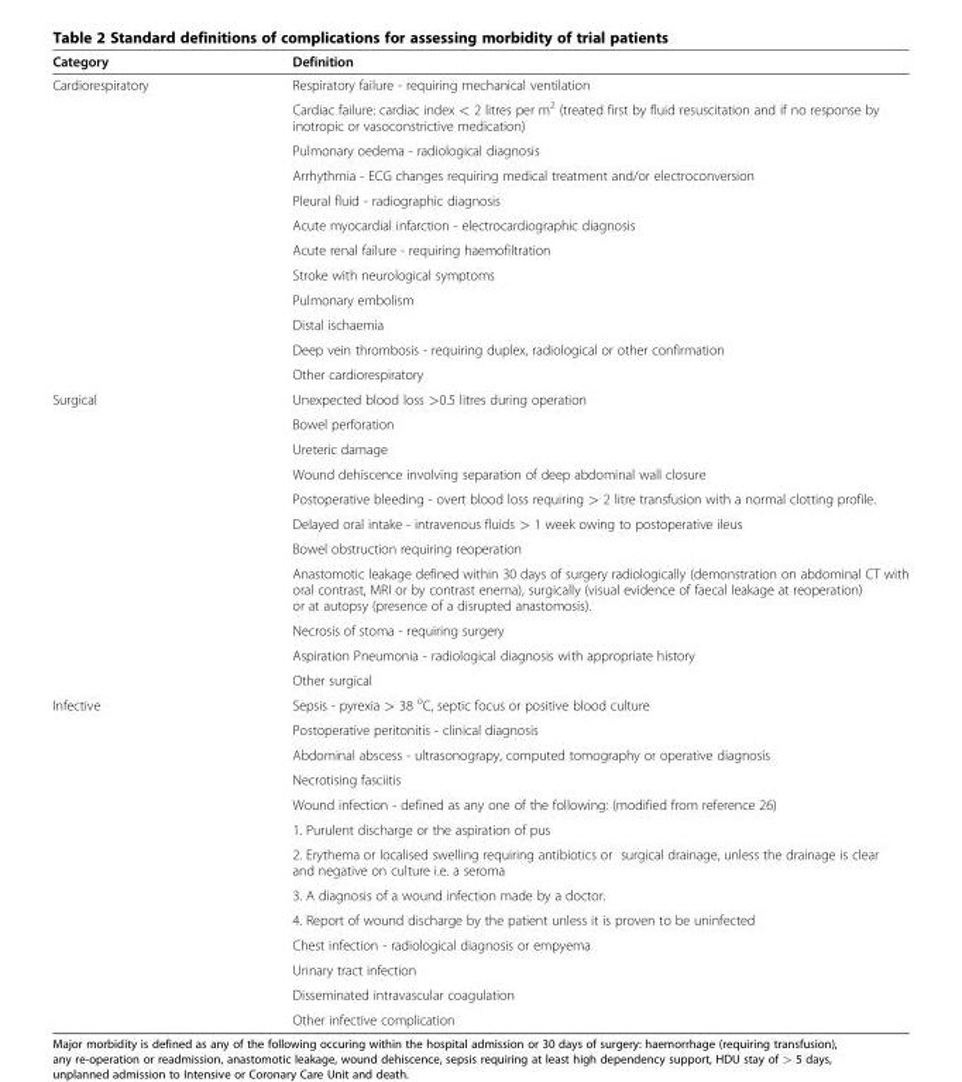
<table><thead><tr><td>Category</td><td>Definition</td></tr></thead><tbody><tr><td rowspan="12">Cardiorespiratory</td><td>Respiratory failure - requiring mechanical ventilation</td></tr><tr><td>Cardiac failure: cardiac index &lt; 2 litres per m<sup>2</sup> (treated first by fluid resuscitation and if no response by inotropic or vasoconstrictive medication)</td></tr><tr><td>Pulmonary oedema - radiological diagnosis</td></tr><tr><td>Arrhythmia - ECG changes requiring medical treatment and/or electroconversion</td></tr><tr><td>Pleural fluid - radiographic diagnosis</td></tr><tr><td>Acute myocardial infarction - electrocardiographic diagnosis</td></tr><tr><td>Acute renal failure - requiring haemofiltration</td></tr><tr><td>Stroke with neurological symptoms</td></tr><tr><td>Pulmonary embolism</td></tr><tr><td>Distal ischaemia</td></tr><tr><td>Deep vein thrombosis - requiring duplex, radiological or other confirmation</td></tr><tr><td>Other cardiorespiratory</td></tr><tr><td rowspan="11">Surgical</td><td>Unexpected blood loss &gt;0.5 litres during operation</td></tr><tr><td>Bowel perforation</td></tr><tr><td>Ureteric damage</td></tr><tr><td>Wound dehiscence involving separation of deep abdominal wall closure</td></tr><tr><td>Postoperative bleeding - overt blood loss requiring &gt; 2 litre transfusion with a normal clotting profile.</td></tr><tr><td>Delayed oral intake - intravenous fluids &gt; 1 week owing to postoperative ileus</td></tr><tr><td>Bowel obstruction requiring reoperation</td></tr><tr><td>Anastomotic leakage defined within 30 days of surgery radiologically (demonstration on abdominal CT with oral contrast, MRI or by contrast enema), surgically (visual evidence of faecal leakage at reoperation) or at autopsy (presence of a disrupted anastomosis).</td></tr><tr><td>Necrosis of stoma - requiring surgery</td></tr><tr><td>Aspiration Pneumonia - radiological diagnosis with appropriate history</td></tr><tr><td>Other surgical</td></tr><tr><td rowspan="13">Infective</td><td>Sepsis - pyrexia &gt; 38 <sup>o</sup>C, septic focus or positive blood culture</td></tr><tr><td>Postoperative peritonitis - clinical diagnosis</td></tr><tr><td>Abdominal abscess - ultrasonograpy, computed tomography or operative diagnosis</td></tr><tr><td>Necrotising fasciitis</td></tr><tr><td>Wound infection - defined as any one of the following: (modified from reference 26)</td></tr><tr><td>1. Purulent discharge or the aspiration of pus</td></tr><tr><td>2. Erythema or localised swelling requiring antibiotics or surgical drainage, unless the drainage is clear and negative on culture i.e. a seroma</td></tr><tr><td>3. A diagnosis of a wound infection made by a doctor.</td></tr><tr><td>4. Report of wound discharge by the patient unless it is proven to be uninfected</td></tr><tr><td>Chest infection - radiological diagnosis or empyema</td></tr><tr><td>Urinary tract infection</td></tr><tr><td>Disseminated intravascular coagulation</td></tr><tr><td>Other infective complication</td></tr></tbody></table>